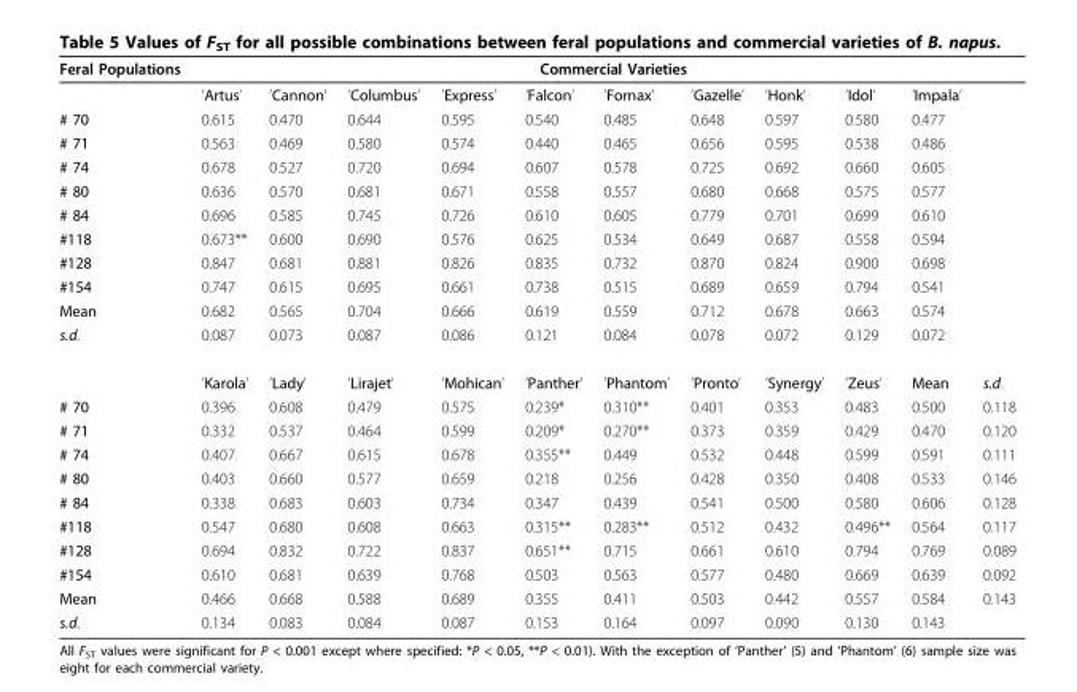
<table><thead><tr><td rowspan="2">Feral Populations</td><td colspan="11">Commercial Varieties</td></tr><tr><td>’Artus’</td><td>’Cannon’</td><td>’Columbus’</td><td>’Express’</td><td>’Falcon’</td><td>’Fornax’</td><td>’Gazelle’</td><td>’Honk’</td><td>’Idol’</td><td>’Impala’</td><td></td></tr></thead><tbody><tr><td># 70</td><td>0.615</td><td>0.470</td><td>0.644</td><td>0.595</td><td>0.540</td><td>0.485</td><td>0.648</td><td>0.597</td><td>0.580</td><td>0.477</td><td></td></tr><tr><td># 71</td><td>0.563</td><td>0.469</td><td>0.580</td><td>0.574</td><td>0.440</td><td>0.465</td><td>0.656</td><td>0.595</td><td>0.538</td><td>0.486</td><td></td></tr><tr><td># 74</td><td>0.678</td><td>0.527</td><td>0.720</td><td>0.694</td><td>0.607</td><td>0.578</td><td>0.725</td><td>0.692</td><td>0.660</td><td>0.605</td><td></td></tr><tr><td># 80</td><td>0.636</td><td>0.570</td><td>0.681</td><td>0.671</td><td>0.558</td><td>0.557</td><td>0.680</td><td>0.668</td><td>0.575</td><td>0.577</td><td></td></tr><tr><td># 84</td><td>0.696</td><td>0.585</td><td>0.745</td><td>0.726</td><td>0.610</td><td>0.605</td><td>0.779</td><td>0.701</td><td>0.699</td><td>0.610</td><td></td></tr><tr><td>#118</td><td>0.673**</td><td>0.600</td><td>0.690</td><td>0.576</td><td>0.625</td><td>0.534</td><td>0.649</td><td>0.687</td><td>0.558</td><td>0.594</td><td></td></tr><tr><td>#128</td><td>0.847</td><td>0.681</td><td>0.881</td><td>0.826</td><td>0.835</td><td>0.732</td><td>0.870</td><td>0.824</td><td>0.900</td><td>0.698</td><td></td></tr><tr><td>#154</td><td>0.747</td><td>0.615</td><td>0.695</td><td>0.661</td><td>0.738</td><td>0.515</td><td>0.689</td><td>0.659</td><td>0.794</td><td>0.541</td><td></td></tr><tr><td>Mean</td><td>0.682</td><td>0.565</td><td>0.704</td><td>0.666</td><td>0.619</td><td>0.559</td><td>0.712</td><td>0.678</td><td>0.663</td><td>0.574</td><td></td></tr><tr><td rowspan="2">s.d.</td><td>0.087</td><td>0.073</td><td>0.087</td><td>0.086</td><td>0.121</td><td>0.084</td><td>0.078</td><td>0.072</td><td>0.129</td><td>0.072</td><td></td></tr><tr><td>’Karola’</td><td>’Lady’</td><td>’Lirajet’</td><td>’Mohican’</td><td>’Panther’</td><td>’Phantom’</td><td>’Pronto’</td><td>’Synergy’</td><td>’Zeus’</td><td>Mean</td><td>s.d.</td></tr><tr><td># 70</td><td>0.396</td><td>0.608</td><td>0.479</td><td>0.575</td><td>0.239*</td><td>0.310**</td><td>0.401</td><td>0.353</td><td>0.483</td><td>0.500</td><td>0.118</td></tr><tr><td># 71</td><td>0.332</td><td>0.537</td><td>0.464</td><td>0.599</td><td>0.209*</td><td>0.270**</td><td>0.373</td><td>0.359</td><td>0.429</td><td>0.470</td><td>0.120</td></tr><tr><td># 74</td><td>0.407</td><td>0.667</td><td>0.615</td><td>0.678</td><td>0.355**</td><td>0.449</td><td>0.532</td><td>0.448</td><td>0.599</td><td>0.591</td><td>0.111</td></tr><tr><td># 80</td><td>0.403</td><td>0.660</td><td>0.577</td><td>0.659</td><td>0.218</td><td>0.256</td><td>0.428</td><td>0.350</td><td>0.408</td><td>0.533</td><td>0.146</td></tr><tr><td># 84</td><td>0.338</td><td>0.683</td><td>0.603</td><td>0.734</td><td>0.347</td><td>0.439</td><td>0.541</td><td>0.500</td><td>0.580</td><td>0.606</td><td>0.128</td></tr><tr><td>#118</td><td>0.547</td><td>0.680</td><td>0.608</td><td>0.663</td><td>0.315**</td><td>0.283**</td><td>0.512</td><td>0.432</td><td>0.496**</td><td>0.564</td><td>0.117</td></tr><tr><td>#128</td><td>0.694</td><td>0.832</td><td>0.722</td><td>0.837</td><td>0.651**</td><td>0.715</td><td>0.661</td><td>0.610</td><td>0.794</td><td>0.769</td><td>0.089</td></tr><tr><td>#154</td><td>0.610</td><td>0.681</td><td>0.639</td><td>0.768</td><td>0.503</td><td>0.563</td><td>0.577</td><td>0.480</td><td>0.669</td><td>0.639</td><td>0.092</td></tr><tr><td>Mean</td><td>0.466</td><td>0.668</td><td>0.588</td><td>0.689</td><td>0.355</td><td>0.411</td><td>0.503</td><td>0.442</td><td>0.557</td><td>0.584</td><td>0.143</td></tr><tr><td>s.d.</td><td>0.134</td><td>0.083</td><td>0.084</td><td>0.087</td><td>0.153</td><td>0.164</td><td>0.097</td><td>0.090</td><td>0.130</td><td>0.143</td><td></td></tr></tbody></table>